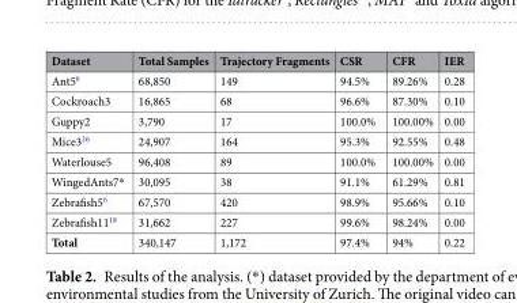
<table><thead><tr><td>Dataset</td><td>Total Samples</td><td>Trajectory Fragments</td><td>CSR</td><td>CFR</td><td>IER</td></tr></thead><tbody><tr><td>Ant5<sup>6</sup></td><td>68,850</td><td>149</td><td>94.5%</td><td>89.26%</td><td>0.28</td></tr><tr><td>Cockroach3</td><td>16,865</td><td>68</td><td>96.6%</td><td>87.30%</td><td>0.10</td></tr><tr><td>Guppy2</td><td>3,790</td><td>17</td><td>100.0%</td><td>100.00%</td><td>0.00</td></tr><tr><td>Mice3<sup>26</sup></td><td>24,907</td><td>164</td><td>95.3%</td><td>92.55%</td><td>0.48</td></tr><tr><td>Waterlouse5</td><td>96,408</td><td>89</td><td>100.0%</td><td>100.00%</td><td>0.00</td></tr><tr><td>WingedAnts7*</td><td>30,095</td><td>38</td><td>91.1%</td><td>61.29%</td><td>0.81</td></tr><tr><td>Zebrafish5<sup>6</sup></td><td>67,570</td><td>420</td><td>98.9%</td><td>95.66%</td><td>0.10</td></tr><tr><td>Zebrafish11<sup>18</sup></td><td>31,662</td><td>227</td><td>99.6%</td><td>98.24%</td><td>0.00</td></tr><tr><td>Total</td><td>340,147</td><td>1,172</td><td>97.4%</td><td>94%</td><td>0.22</td></tr></tbody></table>